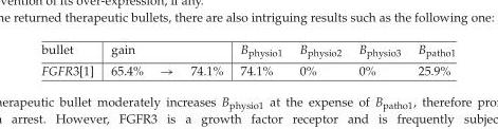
<table><thead><tr><td>bullet</td><td>gain</td><td></td><td></td><td>B<sub>physio1</sub></td><td>B<sub>physio2</sub></td><td>B<sub>physio3</sub></td><td>B<sub>patho1</sub></td></tr></thead><tbody><tr><td>FGFR3[1]</td><td>65.4%</td><td>→</td><td>74.1%</td><td>74.1%</td><td>0%</td><td>0%</td><td>25.9%</td></tr></tbody></table>